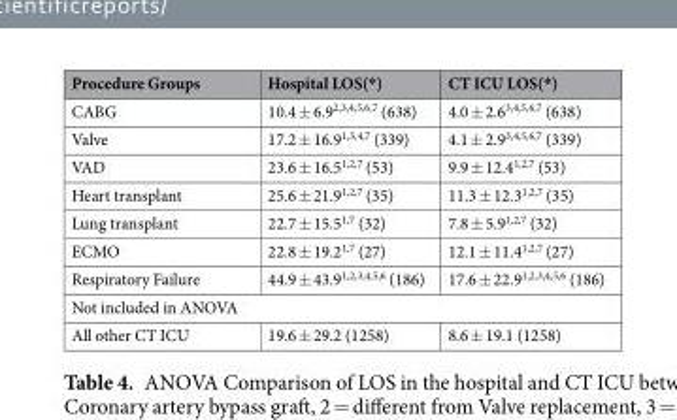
<table><thead><tr><td>Procedure Groups</td><td>Hospital LOS(*)</td><td>CT ICU LOS(*)</td></tr></thead><tbody><tr><td>CABG</td><td>10.4 ± 6.9<sup>2,3,4,5,6,7</sup> (638)</td><td>4.0 ± 2.6<sup>3,4,5,6,7</sup> (638)</td></tr><tr><td>Valve</td><td>17.2 ± 16.9<sup>1,3,4,7</sup> (339)</td><td>4.1 ± 2.9<sup>3,4,5,6,7</sup> (339)</td></tr><tr><td>VAD</td><td>23.6 ± 16.5<sup>1,2,7</sup> (53)</td><td>9.9 ± 12.4<sup>1,2,7</sup> (53)</td></tr><tr><td>Heart transplant</td><td>25.6 ± 21.9<sup>1,2,7</sup> (35)</td><td>11.3 ± 12.3<sup>1,2,7</sup> (35)</td></tr><tr><td>Lung transplant</td><td>22.7 ± 15.5<sup>1,7</sup> (32)</td><td>7.8 ± 5.9<sup>1,2,7</sup> (32)</td></tr><tr><td>ECMO</td><td>22.8 ± 19.2<sup>1,7</sup> (27)</td><td>12.1 ± 11.4<sup>1,2,7</sup> (27)</td></tr><tr><td>Respiratory Failure</td><td>44.9 ± 43.9<sup>1,2,3,4,5,6</sup> (186)</td><td>17.6 ± 22.9<sup>1,2,3,4,5,6</sup> (186)</td></tr><tr><td colspan="3">Not included in ANOVA</td></tr><tr><td>All other CT ICU</td><td>19.6 ± 29.2 (1258)</td><td>8.6 ± 19.1 (1258)</td></tr></tbody></table>